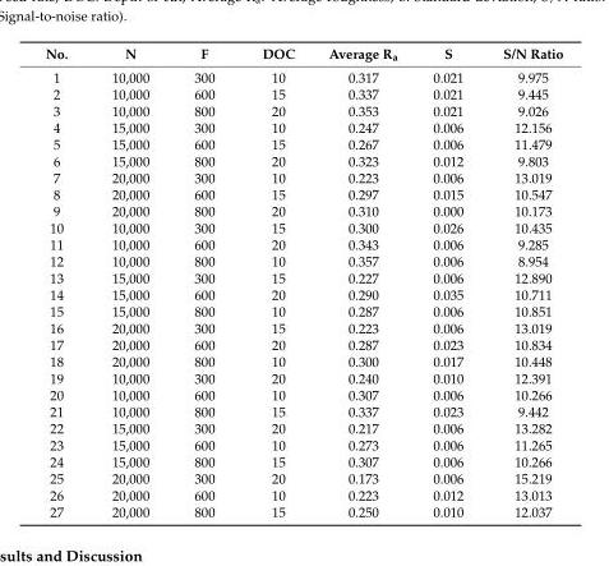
<table><thead><tr><td>No.</td><td>N</td><td>F</td><td>DOC</td><td>Average R<sub>a</sub></td><td>S</td><td>S/N Ratio</td></tr></thead><tbody><tr><td>1</td><td>10,000</td><td>300</td><td>10</td><td>0.317</td><td>0.021</td><td>9.975</td></tr><tr><td>2</td><td>10,000</td><td>600</td><td>15</td><td>0.337</td><td>0.021</td><td>9.445</td></tr><tr><td>3</td><td>10,000</td><td>800</td><td>20</td><td>0.353</td><td>0.021</td><td>9.026</td></tr><tr><td>4</td><td>15,000</td><td>300</td><td>10</td><td>0.247</td><td>0.006</td><td>12.156</td></tr><tr><td>5</td><td>15,000</td><td>600</td><td>15</td><td>0.267</td><td>0.006</td><td>11.479</td></tr><tr><td>6</td><td>15,000</td><td>800</td><td>20</td><td>0.323</td><td>0.012</td><td>9.803</td></tr><tr><td>7</td><td>20,000</td><td>300</td><td>10</td><td>0.223</td><td>0.006</td><td>13.019</td></tr><tr><td>8</td><td>20,000</td><td>600</td><td>15</td><td>0.297</td><td>0.015</td><td>10.547</td></tr><tr><td>9</td><td>20,000</td><td>800</td><td>20</td><td>0.310</td><td>0.000</td><td>10.173</td></tr><tr><td>10</td><td>10,000</td><td>300</td><td>15</td><td>0.300</td><td>0.026</td><td>10.435</td></tr><tr><td>11</td><td>10,000</td><td>600</td><td>20</td><td>0.343</td><td>0.006</td><td>9.285</td></tr><tr><td>12</td><td>10,000</td><td>800</td><td>10</td><td>0.357</td><td>0.006</td><td>8.954</td></tr><tr><td>13</td><td>15,000</td><td>300</td><td>15</td><td>0.227</td><td>0.006</td><td>12.890</td></tr><tr><td>14</td><td>15,000</td><td>600</td><td>20</td><td>0.290</td><td>0.035</td><td>10.711</td></tr><tr><td>15</td><td>15,000</td><td>800</td><td>10</td><td>0.287</td><td>0.006</td><td>10.851</td></tr><tr><td>16</td><td>20,000</td><td>300</td><td>15</td><td>0.223</td><td>0.006</td><td>13.019</td></tr><tr><td>17</td><td>20,000</td><td>600</td><td>20</td><td>0.287</td><td>0.023</td><td>10.834</td></tr><tr><td>18</td><td>20,000</td><td>800</td><td>10</td><td>0.300</td><td>0.017</td><td>10.448</td></tr><tr><td>19</td><td>10,000</td><td>300</td><td>20</td><td>0.240</td><td>0.010</td><td>12.391</td></tr><tr><td>20</td><td>10,000</td><td>600</td><td>10</td><td>0.307</td><td>0.006</td><td>10.266</td></tr><tr><td>21</td><td>10,000</td><td>800</td><td>15</td><td>0.337</td><td>0.023</td><td>9.442</td></tr><tr><td>22</td><td>15,000</td><td>300</td><td>20</td><td>0.217</td><td>0.006</td><td>13.282</td></tr><tr><td>23</td><td>15,000</td><td>600</td><td>10</td><td>0.273</td><td>0.006</td><td>11.265</td></tr><tr><td>24</td><td>15,000</td><td>800</td><td>15</td><td>0.307</td><td>0.006</td><td>10.266</td></tr><tr><td>25</td><td>20,000</td><td>300</td><td>20</td><td>0.173</td><td>0.006</td><td>15.219</td></tr><tr><td>26</td><td>20,000</td><td>600</td><td>10</td><td>0.223</td><td>0.012</td><td>13.013</td></tr><tr><td>27</td><td>20,000</td><td>800</td><td>15</td><td>0.250</td><td>0.010</td><td>12.037</td></tr></tbody></table>